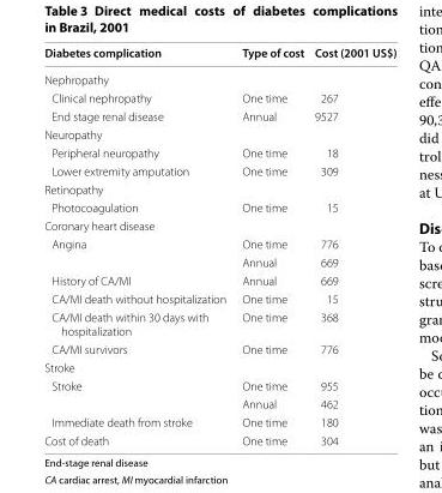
<table><thead><tr><td>Diabetes complication</td><td>Type of cost</td><td>Cost (2001 US$)</td></tr></thead><tbody><tr><td colspan="3">Nephropathy</td></tr><tr><td>Clinical nephropathy</td><td>One time</td><td>267</td></tr><tr><td>End stage renal disease</td><td>Annual</td><td>9527</td></tr><tr><td colspan="3">Neuropathy</td></tr><tr><td>Peripheral neuropathy</td><td>One time</td><td>18</td></tr><tr><td>Lower extremity amputation</td><td>One time</td><td>309</td></tr><tr><td colspan="3">Retinopathy</td></tr><tr><td>Photocoagulation</td><td>One time</td><td>15</td></tr><tr><td colspan="3">Coronary heart disease</td></tr><tr><td rowspan="2">Angina</td><td>One time</td><td>776</td></tr><tr><td>Annual</td><td>669</td></tr><tr><td>History of CA/MI</td><td>Annual</td><td>669</td></tr><tr><td>CA/MI death without hospitalization</td><td>One time</td><td>15</td></tr><tr><td>CA/MI death within 30 days with hospitalization</td><td>One time</td><td>368</td></tr><tr><td>CA/MI survivors</td><td>One time</td><td>776</td></tr><tr><td colspan="3">Stroke</td></tr><tr><td rowspan="2">Stroke</td><td>One time</td><td>955</td></tr><tr><td>Annual</td><td>462</td></tr><tr><td>Immediate death from stroke</td><td>One time</td><td>180</td></tr><tr><td>Cost of death</td><td>One time</td><td>304</td></tr></tbody></table>